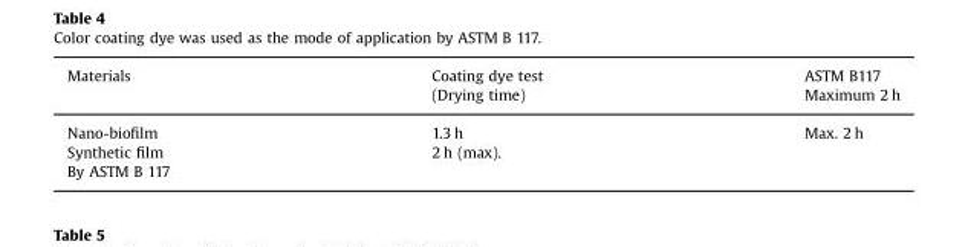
<table><thead><tr><td rowspan="2">Materials</td><td rowspan="2">Coating dye test (Drying time)</td><td rowspan="2">ASTM B117 Maximum 2 h</td></tr><tr></tr></thead><tbody><tr><td>Nano-biofilm</td><td>1.3 h</td><td rowspan="3">Max. 2 h</td></tr><tr><td>Synthetic film</td><td>2 h (max).</td></tr><tr><td>By ASTM B 117</td><td></td></tr></tbody></table>